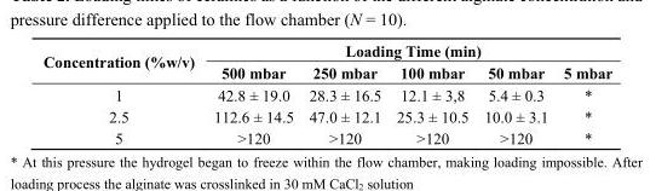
<table><thead><tr><td rowspan="2">Concentration (%w/v)</td><td colspan="5">Loading Time (min)</td></tr><tr><td>500 mbar</td><td>250 mbar</td><td>100 mbar</td><td>50 mbar</td><td>5 mbar</td></tr></thead><tbody><tr><td>1</td><td>42.8 ± 19.0</td><td>28.3 ± 16.5</td><td>12.1 ± 3,8</td><td>5.4 ± 0.3</td><td>*</td></tr><tr><td>2.5</td><td>112.6 ± 14.5</td><td>47.0 ± 12.1</td><td>25.3 ± 10.5</td><td>10.0 ± 3.1</td><td>*</td></tr><tr><td>5</td><td>&gt;120</td><td>&gt;120</td><td>&gt;120</td><td>&gt;120</td><td>*</td></tr></tbody></table>